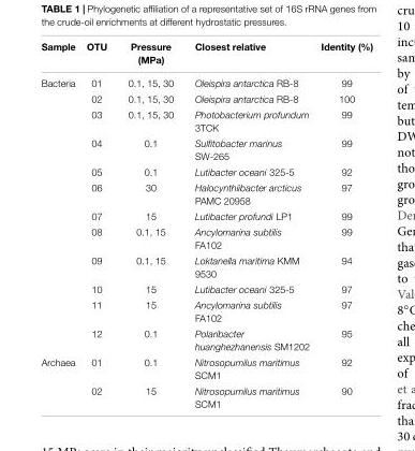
<table><thead><tr><td>Sample</td><td>OTU</td><td>Pressure (MPa)</td><td>Closest relative</td><td>Identity (%)</td></tr></thead><tbody><tr><td rowspan="12">Bacteria</td><td>01</td><td>0.1, 15, 30</td><td>Oleispira antarctica RB-8</td><td>99</td></tr><tr><td>02</td><td>0.1, 15, 30</td><td>Oleispira antarctica RB-8</td><td>100</td></tr><tr><td>03</td><td>0.1, 15, 30</td><td>Photobacterium profundum 3TCK</td><td>99</td></tr><tr><td>04</td><td>0.1</td><td>Sulfitobacter marinus SW-265</td><td>99</td></tr><tr><td>05</td><td>0.1</td><td>Lutibacter oceani 325-5</td><td>92</td></tr><tr><td>06</td><td>30</td><td>Halocynthiibacter arcticus PAMC 20958</td><td>97</td></tr><tr><td>07</td><td>15</td><td>Lutibacter profundi LP1</td><td>99</td></tr><tr><td>08</td><td>0.1, 15</td><td>Ancylomarina subtilis FA102</td><td>99</td></tr><tr><td>09</td><td>0.1, 15</td><td>Loktanella maritima KMM 9530</td><td>94</td></tr><tr><td>10</td><td>15</td><td>Lutibacter oceani 325-5</td><td>97</td></tr><tr><td>11</td><td>15</td><td>Ancylomarina subtilis FA102</td><td>97</td></tr><tr><td>12</td><td>0.1</td><td>Polaribacter huanghezhanensis SM1202</td><td>95</td></tr><tr><td rowspan="2">Archaea</td><td>01</td><td>0.1</td><td>Nitrosopumilus maritimus SCM1</td><td>92</td></tr><tr><td>02</td><td>15</td><td>Nitrosopumilus maritimus SCM1</td><td>90</td></tr></tbody></table>